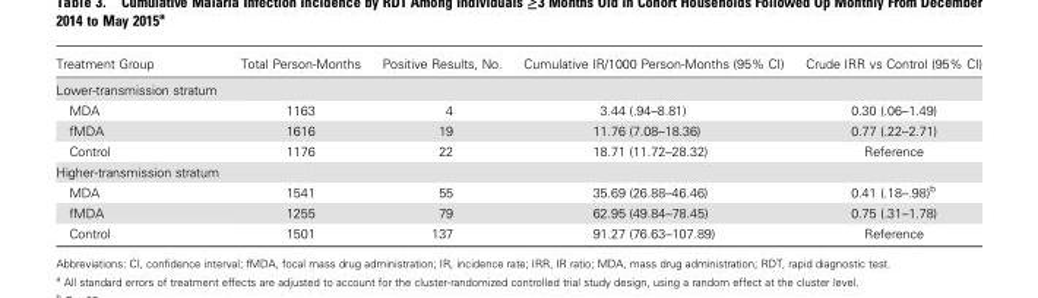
<table><thead><tr><td>Treatment Group</td><td>Total Person-Months</td><td>Positive Results, No.</td><td>Cumulative IR/1000 Person-Months (95% CI)</td><td>Crude IRR vs Control (95% CI)</td></tr></thead><tbody><tr><td colspan="5">Lower-transmission stratum</td></tr><tr><td>MDA</td><td>1163</td><td>4</td><td>3.44 (.94–8.81)</td><td>0.30 (.06–1.49)</td></tr><tr><td>fMDA</td><td>1616</td><td>19</td><td>11.76 (7.08–18.36)</td><td>0.77 (.22–2.71)</td></tr><tr><td>Control</td><td>1176</td><td>22</td><td>18.71 (11.72–28.32)</td><td>Reference</td></tr><tr><td colspan="5">Higher-transmission stratum</td></tr><tr><td>MDA</td><td>1541</td><td>55</td><td>35.69 (26.88–46.46)</td><td>0.41 (.18–.98)<sup>b</sup></td></tr><tr><td>fMDA</td><td>1255</td><td>79</td><td>62.95 (49.84–78.45)</td><td>0.75 (.31–1.78)</td></tr><tr><td>Control</td><td>1501</td><td>137</td><td>91.27 (76.63–107.89)</td><td>Reference</td></tr></tbody></table>